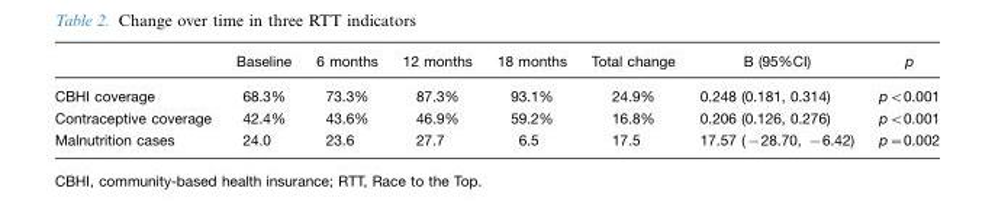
<table><thead><tr><td></td><td>Baseline</td><td>6 months</td><td>12 months</td><td>18 months</td><td>Total change</td><td>B (95%CI)</td><td>p</td></tr></thead><tbody><tr><td>CBHI coverage</td><td>68.3%</td><td>73.3%</td><td>87.3%</td><td>93.1%</td><td>24.9%</td><td>0.248 (0.181, 0.314)</td><td>p&lt;0.001</td></tr><tr><td>Contraceptive coverage</td><td>42.4%</td><td>43.6%</td><td>46.9%</td><td>59.2%</td><td>16.8%</td><td>0.206 (0.126, 0.276)</td><td>p&lt;0.001</td></tr><tr><td>Malnutrition cases</td><td>24.0</td><td>23.6</td><td>27.7</td><td>6.5</td><td>17.5</td><td>17.57 (−28.70, −6.42)</td><td>p=0.002</td></tr></tbody></table>